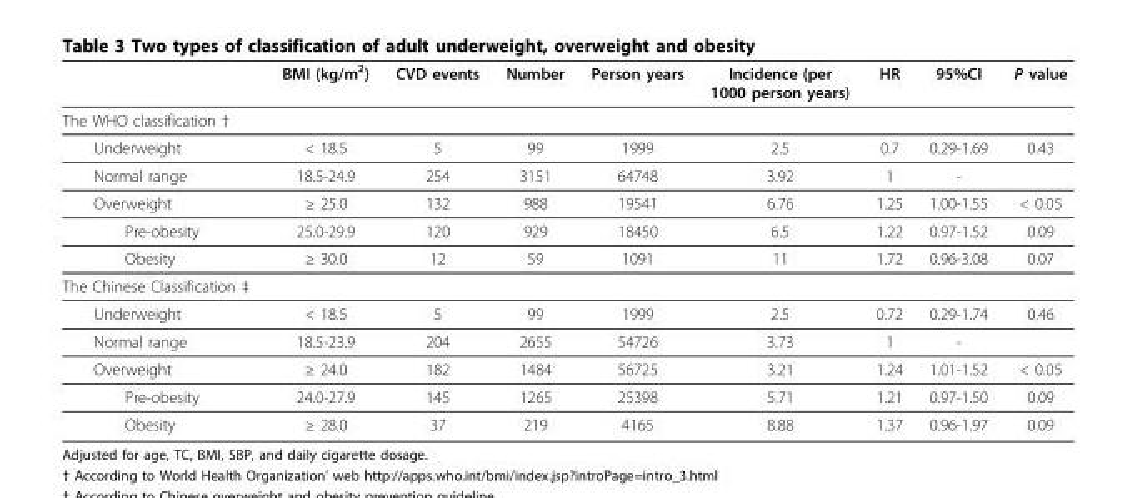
<table><thead><tr><td></td><td>BMI (kg/m<sup>2</sup>)</td><td>CVD events</td><td>Number</td><td>Person years</td><td>Incidence (per 1000 person years)</td><td>HR</td><td>95%CI</td><td>P value</td></tr></thead><tbody><tr><td colspan="9">The WHO classification †</td></tr><tr><td>Underweight</td><td>&lt; 18.5</td><td>5</td><td>99</td><td>1999</td><td>2.5</td><td>0.7</td><td>0.29-1.69</td><td>0.43</td></tr><tr><td>Normal range</td><td>18.5-24.9</td><td>254</td><td>3151</td><td>64748</td><td>3.92</td><td>1</td><td>-</td><td></td></tr><tr><td>Overweight</td><td>≥ 25.0</td><td>132</td><td>988</td><td>19541</td><td>6.76</td><td>1.25</td><td>1.00-1.55</td><td>&lt; 0.05</td></tr><tr><td>Pre-obesity</td><td>25.0-29.9</td><td>120</td><td>929</td><td>18450</td><td>6.5</td><td>1.22</td><td>0.97-1.52</td><td>0.09</td></tr><tr><td>Obesity</td><td>≥ 30.0</td><td>12</td><td>59</td><td>1091</td><td>11</td><td>1.72</td><td>0.96-3.08</td><td>0.07</td></tr><tr><td colspan="9">The Chinese Classification ‡</td></tr><tr><td>Underweight</td><td>&lt; 18.5</td><td>5</td><td>99</td><td>1999</td><td>2.5</td><td>0.72</td><td>0.29-1.74</td><td>0.46</td></tr><tr><td>Normal range</td><td>18.5-23.9</td><td>204</td><td>2655</td><td>54726</td><td>3.73</td><td>1</td><td>-</td><td></td></tr><tr><td>Overweight</td><td>≥ 24.0</td><td>182</td><td>1484</td><td>56725</td><td>3.21</td><td>1.24</td><td>1.01-1.52</td><td>&lt; 0.05</td></tr><tr><td>Pre-obesity</td><td>24.0-27.9</td><td>145</td><td>1265</td><td>25398</td><td>5.71</td><td>1.21</td><td>0.97-1.50</td><td>0.09</td></tr><tr><td>Obesity</td><td>≥ 28.0</td><td>37</td><td>219</td><td>4165</td><td>8.88</td><td>1.37</td><td>0.96-1.97</td><td>0.09</td></tr></tbody></table>